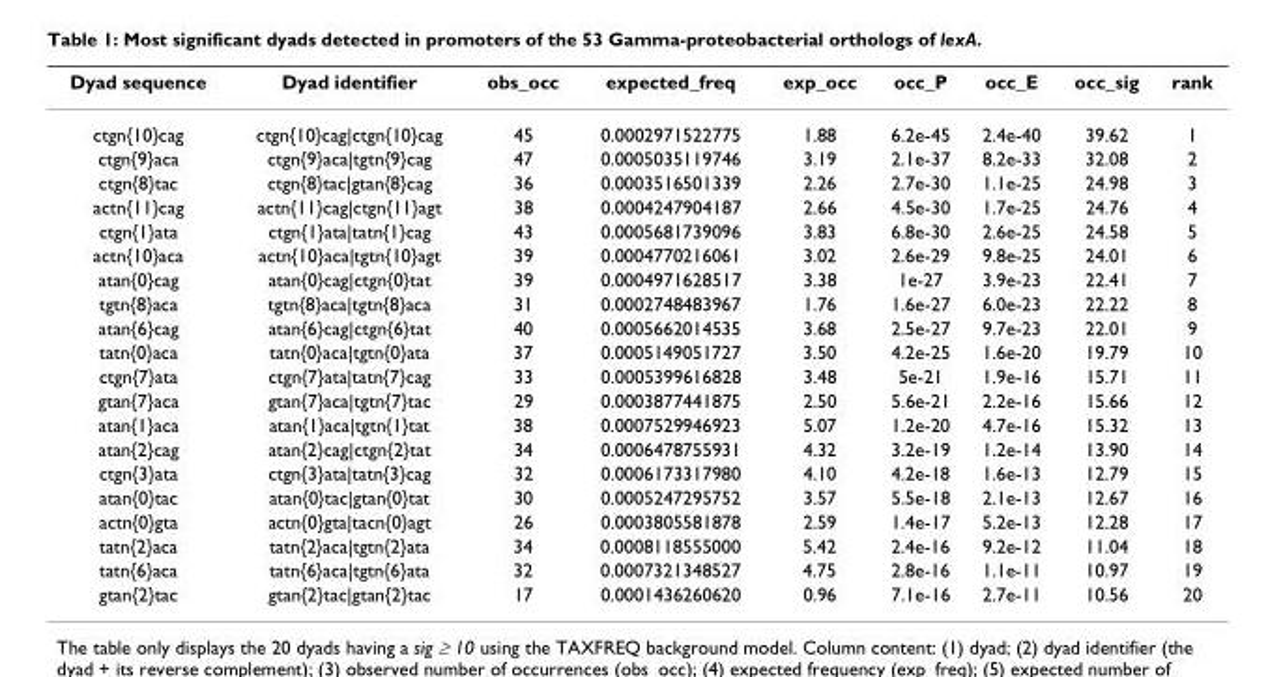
<table><thead><tr><td>Dyad sequence</td><td>Dyad identifier</td><td>obs_occ</td><td>expected_freq</td><td>exp_occ</td><td>occ_P</td><td>occ_E</td><td>occ_sig</td><td>rank</td></tr></thead><tbody><tr><td>ctgn{10}cag</td><td>ctgn{10}cag|ctgn{10}cag</td><td>45</td><td>0.0002971522775</td><td>1.88</td><td>6.2e-45</td><td>2.4e-40</td><td>39.62</td><td>1</td></tr><tr><td>ctgn{9}aca</td><td>ctgn{9}aca|tgtn{9}cag</td><td>47</td><td>0.0005035119746</td><td>3.19</td><td>2.1e-37</td><td>8.2e-33</td><td>32.08</td><td>2</td></tr><tr><td>ctgn{8}tac</td><td>ctgn{8}tac|gtan{8}cag</td><td>36</td><td>0.0003516501339</td><td>2.26</td><td>2.7e-30</td><td>1.1e-25</td><td>24.98</td><td>3</td></tr><tr><td>actn{11}cag</td><td>actn{11}cag|ctgn{11}agt</td><td>38</td><td>0.0004247904187</td><td>2.66</td><td>4.5e-30</td><td>1.7e-25</td><td>24.76</td><td>4</td></tr><tr><td>ctgn{1}ata</td><td>ctgn{1}ata|tatn{1}cag</td><td>43</td><td>0.0005681739096</td><td>3.83</td><td>6.8e-30</td><td>2.6e-25</td><td>24.58</td><td>5</td></tr><tr><td>actn{10}aca</td><td>actn{10}aca|tgtn{10}agt</td><td>39</td><td>0.0004770216061</td><td>3.02</td><td>2.6e-29</td><td>9.8e-25</td><td>24.01</td><td>6</td></tr><tr><td>atan{0}cag</td><td>atan{0}cag|ctgn{0}tat</td><td>39</td><td>0.0004971628517</td><td>3.38</td><td>1e-27</td><td>3.9e-23</td><td>22.41</td><td>7</td></tr><tr><td>tgtn{8}aca</td><td>tgtn{8}aca|tgtn{8}aca</td><td>31</td><td>0.0002748483967</td><td>1.76</td><td>1.6e-27</td><td>6.0e-23</td><td>22.22</td><td>8</td></tr><tr><td>atan{6}cag</td><td>atan{6}cag|ctgn{6}tat</td><td>40</td><td>0.0005662014535</td><td>3.68</td><td>2.5e-27</td><td>9.7e-23</td><td>22.01</td><td>9</td></tr><tr><td>tatn{0}aca</td><td>tatn{0}aca|tgtn{0}ata</td><td>37</td><td>0.0005149051727</td><td>3.50</td><td>4.2e-25</td><td>1.6e-20</td><td>19.79</td><td>10</td></tr><tr><td>ctgn{7}ata</td><td>ctgn{7}ata|tatn{7}cag</td><td>33</td><td>0.0005399616828</td><td>3.48</td><td>5e-21</td><td>1.9e-16</td><td>15.71</td><td>11</td></tr><tr><td>gtan{7}aca</td><td>gtan{7}aca|tgtn{7}tac</td><td>29</td><td>0.0003877441875</td><td>2.50</td><td>5.6e-21</td><td>2.2e-16</td><td>15.66</td><td>12</td></tr><tr><td>atan{1}aca</td><td>atan{1}aca|tgtn{1}tat</td><td>38</td><td>0.0007529946923</td><td>5.07</td><td>1.2e-20</td><td>4.7e-16</td><td>15.32</td><td>13</td></tr><tr><td>atan{2}cag</td><td>atan{2}cag|ctgn{2}tat</td><td>34</td><td>0.0006478755931</td><td>4.32</td><td>3.2e-19</td><td>1.2e-14</td><td>13.90</td><td>14</td></tr><tr><td>ctgn{3}ata</td><td>ctgn{3}ata|tatn{3}cag</td><td>32</td><td>0.0006173317980</td><td>4.10</td><td>4.2e-18</td><td>1.6e-13</td><td>12.79</td><td>15</td></tr><tr><td>atan{0}tac</td><td>atan{0}tac|gtan{0}tat</td><td>30</td><td>0.0005247295752</td><td>3.57</td><td>5.5e-18</td><td>2.1e-13</td><td>12.67</td><td>16</td></tr><tr><td>actn{0}gta</td><td>actn{0}gta|tacn{0}agt</td><td>26</td><td>0.0003805581878</td><td>2.59</td><td>1.4e-17</td><td>5.2e-13</td><td>12.28</td><td>17</td></tr><tr><td>tatn{2}aca</td><td>tatn{2}aca|tgtn{2}ata</td><td>34</td><td>0.0008118555000</td><td>5.42</td><td>2.4e-16</td><td>9.2e-12</td><td>11.04</td><td>18</td></tr><tr><td>tatn{6}aca</td><td>tatn{6}aca|tgtn{6}ata</td><td>32</td><td>0.0007321348527</td><td>4.75</td><td>2.8e-16</td><td>1.1e-11</td><td>10.97</td><td>19</td></tr><tr><td>gtan{2}tac</td><td>gtan{2}tac|gtan{2}tac</td><td>17</td><td>0.0001436260620</td><td>0.96</td><td>7.1e-16</td><td>2.7e-11</td><td>10.56</td><td>20</td></tr></tbody></table>